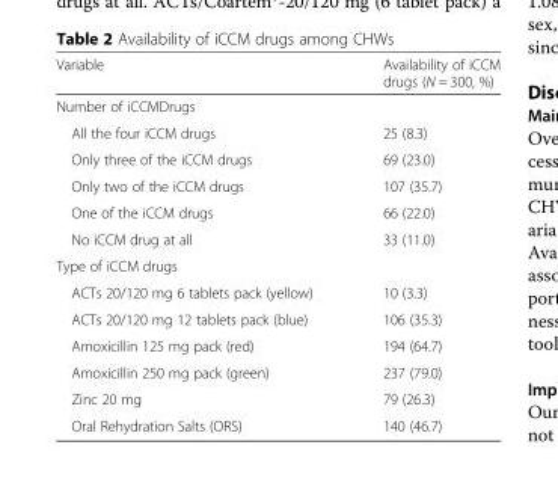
<table><thead><tr><td>Variable</td><td>Availability of iCCM drugs (N = 300, %)</td></tr></thead><tbody><tr><td colspan="2">Number of iCCMDrugs</td></tr><tr><td>All the four iCCM drugs</td><td>25 (8.3)</td></tr><tr><td>Only three of the iCCM drugs</td><td>69 (23.0)</td></tr><tr><td>Only two of the iCCM drugs</td><td>107 (35.7)</td></tr><tr><td>One of the iCCM drugs</td><td>66 (22.0)</td></tr><tr><td>No iCCM drug at all</td><td>33 (11.0)</td></tr><tr><td colspan="2">Type of iCCM drugs</td></tr><tr><td>ACTs 20/120 mg 6 tablets pack (yellow)</td><td>10 (3.3)</td></tr><tr><td>ACTs 20/120 mg 12 tablets pack (blue)</td><td>106 (35.3)</td></tr><tr><td>Amoxicillin 125 mg pack (red)</td><td>194 (64.7)</td></tr><tr><td>Amoxicillin 250 mg pack (green)</td><td>237 (79.0)</td></tr><tr><td>Zinc 20 mg</td><td>79 (26.3)</td></tr><tr><td>Oral Rehydration Salts (ORS)</td><td>140 (46.7)</td></tr></tbody></table>